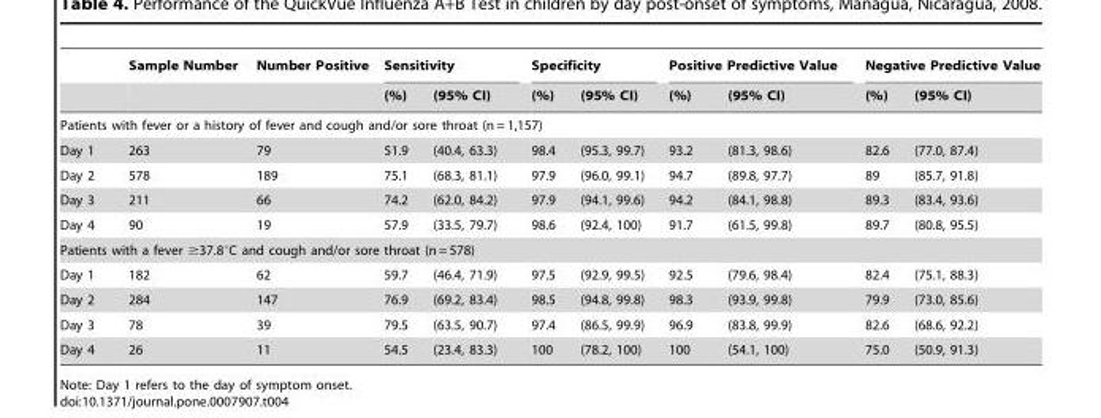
<table><thead><tr><td rowspan="2"></td><td rowspan="2">Sample Number</td><td rowspan="2">Number Positive</td><td colspan="2">Sensitivity</td><td colspan="2">Specificity</td><td colspan="2">Positive Predictive Value</td><td colspan="2">Negative Predictive Value</td></tr><tr><td>(%)</td><td>(95% CI)</td><td>(%)</td><td>(95% CI)</td><td>(%)</td><td>(95% CI)</td><td>(%)</td><td>(95% CI)</td></tr></thead><tbody><tr><td colspan="11">Patients with fever or a history of fever and cough and/or sore throat (n = 1,157)</td></tr><tr><td>Day 1</td><td>263</td><td>79</td><td>51.9</td><td>(40.4, 63.3)</td><td>98.4</td><td>(95.3, 99.7)</td><td>93.2</td><td>(81.3, 98.6)</td><td>82.6</td><td>(77.0, 87.4)</td></tr><tr><td>Day 2</td><td>578</td><td>189</td><td>75.1</td><td>(68.3, 81.1)</td><td>97.9</td><td>(96.0, 99.1)</td><td>94.7</td><td>(89.8, 97.7)</td><td>89</td><td>(85.7, 91.8)</td></tr><tr><td>Day 3</td><td>211</td><td>66</td><td>74.2</td><td>(62.0, 84.2)</td><td>97.9</td><td>(94.1, 99.6)</td><td>94.2</td><td>(84.1, 98.8)</td><td>89.3</td><td>(83.4, 93.6)</td></tr><tr><td>Day 4</td><td>90</td><td>19</td><td>57.9</td><td>(33.5, 79.7)</td><td>98.6</td><td>(92.4, 100)</td><td>91.7</td><td>(61.5, 99.8)</td><td>89.7</td><td>(80.8, 95.5)</td></tr><tr><td colspan="11">Patients with a fever ≥37.8°C and cough and/or sore throat (n = 578)</td></tr><tr><td>Day 1</td><td>182</td><td>62</td><td>59.7</td><td>(46.4, 71.9)</td><td>97.5</td><td>(92.9, 99.5)</td><td>92.5</td><td>(79.6, 98.4)</td><td>82.4</td><td>(75.1, 88.3)</td></tr><tr><td>Day 2</td><td>284</td><td>147</td><td>76.9</td><td>(69.2, 83.4)</td><td>98.5</td><td>(94.8, 99.8)</td><td>98.3</td><td>(93.9, 99.8)</td><td>79.9</td><td>(73.0, 85.6)</td></tr><tr><td>Day 3</td><td>78</td><td>39</td><td>79.5</td><td>(63.5, 90.7)</td><td>97.4</td><td>(86.5, 99.9)</td><td>96.9</td><td>(83.8, 99.9)</td><td>82.6</td><td>(68.6, 92.2)</td></tr><tr><td>Day 4</td><td>26</td><td>11</td><td>54.5</td><td>(23.4, 83.3)</td><td>100</td><td>(78.2, 100)</td><td>100</td><td>(54.1, 100)</td><td>75.0</td><td>(50.9, 91.3)</td></tr></tbody></table>